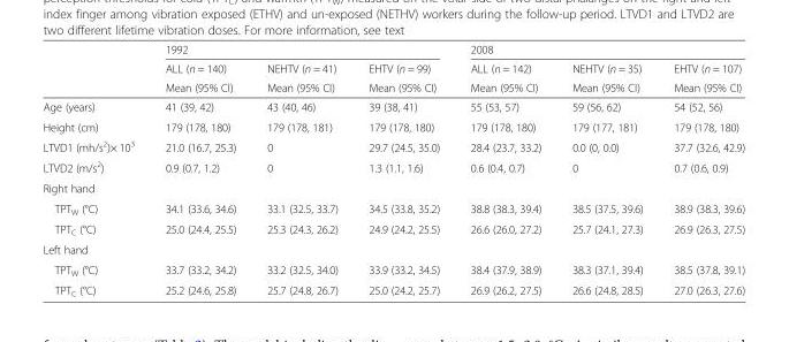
<table><thead><tr><td rowspan="3"></td><td colspan="3">1992</td><td colspan="3">2008</td></tr><tr><td rowspan="2">ALL (n = 140) Mean (95% CI)</td><td rowspan="2">NEHTV (n = 41) Mean (95% CI)</td><td rowspan="2">EHTV (n = 99) Mean (95% CI)</td><td rowspan="2">ALL (n = 142) Mean (95% CI)</td><td rowspan="2">NEHTV (n = 35) Mean (95% CI)</td><td rowspan="2">EHTV (n = 107) Mean (95% CI)</td></tr><tr></tr></thead><tbody><tr><td>Age (years)</td><td>41 (39, 42)</td><td>43 (40, 46)</td><td>39 (38, 41)</td><td>55 (53, 57)</td><td>59 (56, 62)</td><td>54 (52, 56)</td></tr><tr><td>Height (cm)</td><td>179 (178, 180)</td><td>179 (178, 181)</td><td>179 (178, 180)</td><td>179 (178, 180)</td><td>179 (177, 181)</td><td>179 (178, 180)</td></tr><tr><td>LTVD1 (mh/s<sup>2</sup>)× 10<sup>3</sup></td><td>21.0 (16.7, 25.3)</td><td>0</td><td>29.7 (24.5, 35.0)</td><td>28.4 (23.7, 33.2)</td><td>0.0 (0, 0.0)</td><td>37.7 (32.6, 42.9)</td></tr><tr><td>LTVD2 (m/s<sup>2</sup>)</td><td>0.9 (0.7, 1.2)</td><td>0</td><td>1.3 (1.1, 1.6)</td><td>0.6 (0.4, 0.7)</td><td>0</td><td>0.7 (0.6, 0.9)</td></tr><tr><td colspan="7">Right hand</td></tr><tr><td>TPT<sub>W</sub> (°C)</td><td>34.1 (33.6, 34.6)</td><td>33.1 (32.5, 33.7)</td><td>34.5 (33.8, 35.2)</td><td>38.8 (38.3, 39.4)</td><td>38.5 (37.5, 39.6)</td><td>38.9 (38.3, 39.6)</td></tr><tr><td>TPT<sub>C</sub> (°C)</td><td>25.0 (24.4, 25.5)</td><td>25.3 (24.3, 26.2)</td><td>24.9 (24.2, 25.5)</td><td>26.6 (26.0, 27.2)</td><td>25.7 (24.1, 27.3)</td><td>26.9 (26.3, 27.5)</td></tr><tr><td colspan="7">Left hand</td></tr><tr><td>TPT<sub>W</sub> (°C)</td><td>33.7 (33.2, 34.2)</td><td>33.2 (32.5, 34.0)</td><td>33.9 (33.2, 34.5)</td><td>38.4 (37.9, 38.9)</td><td>38.3 (37.1, 39.4)</td><td>38.5 (37.8, 39.1)</td></tr><tr><td>TPT<sub>C</sub> (°C)</td><td>25.2 (24.6, 25.8)</td><td>25.7 (24.8, 26.7)</td><td>25.0 (24.2, 25.7)</td><td>26.9 (26.2, 27.5)</td><td>26.6 (24.8, 28.5)</td><td>27.0 (26.3, 27.6)</td></tr></tbody></table>